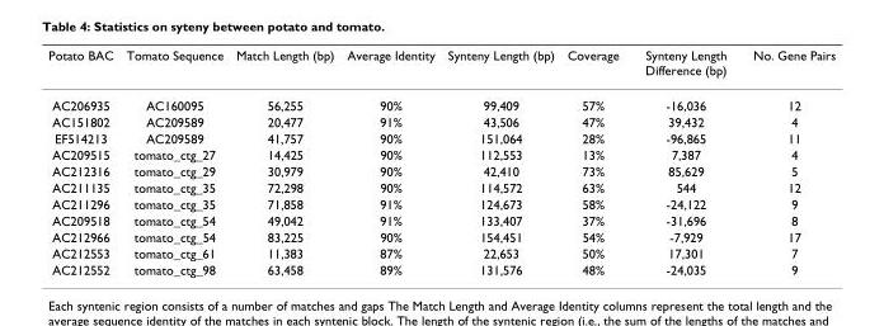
<table><thead><tr><td>Potato BAC</td><td>Tomato Sequence</td><td>Match Length (bp)</td><td>Average Identity</td><td>Synteny Length (bp)</td><td>Coverage</td><td>Synteny Length Difference (bp)</td><td>No. Gene Pairs</td></tr></thead><tbody><tr><td>AC206935</td><td>AC160095</td><td>56,255</td><td>90%</td><td>99,409</td><td>57%</td><td>-16,036</td><td>12</td></tr><tr><td>AC151802</td><td>AC209589</td><td>20,477</td><td>91%</td><td>43,506</td><td>47%</td><td>39,432</td><td>4</td></tr><tr><td>EF514213</td><td>AC209589</td><td>41,757</td><td>90%</td><td>151,064</td><td>28%</td><td>-96,865</td><td>11</td></tr><tr><td>AC209515</td><td>tomato_ctg_27</td><td>14,425</td><td>90%</td><td>112,553</td><td>13%</td><td>7,387</td><td>4</td></tr><tr><td>AC212316</td><td>tomato_ctg_29</td><td>30,979</td><td>90%</td><td>42,410</td><td>73%</td><td>85,629</td><td>5</td></tr><tr><td>AC211135</td><td>tomato_ctg_35</td><td>72,298</td><td>90%</td><td>114,572</td><td>63%</td><td>544</td><td>12</td></tr><tr><td>AC211296</td><td>tomato_ctg_35</td><td>71,858</td><td>91%</td><td>124,673</td><td>58%</td><td>-24,122</td><td>9</td></tr><tr><td>AC209518</td><td>tomato_ctg_54</td><td>49,042</td><td>91%</td><td>133,407</td><td>37%</td><td>-31,696</td><td>8</td></tr><tr><td>AC212966</td><td>tomato_ctg_54</td><td>83,225</td><td>90%</td><td>154,451</td><td>54%</td><td>-7,929</td><td>17</td></tr><tr><td>AC212553</td><td>tomato_ctg_61</td><td>11,383</td><td>87%</td><td>22,653</td><td>50%</td><td>17,301</td><td>7</td></tr><tr><td>AC212552</td><td>tomato_ctg_98</td><td>63,458</td><td>89%</td><td>131,576</td><td>48%</td><td>-24,035</td><td>9</td></tr></tbody></table>